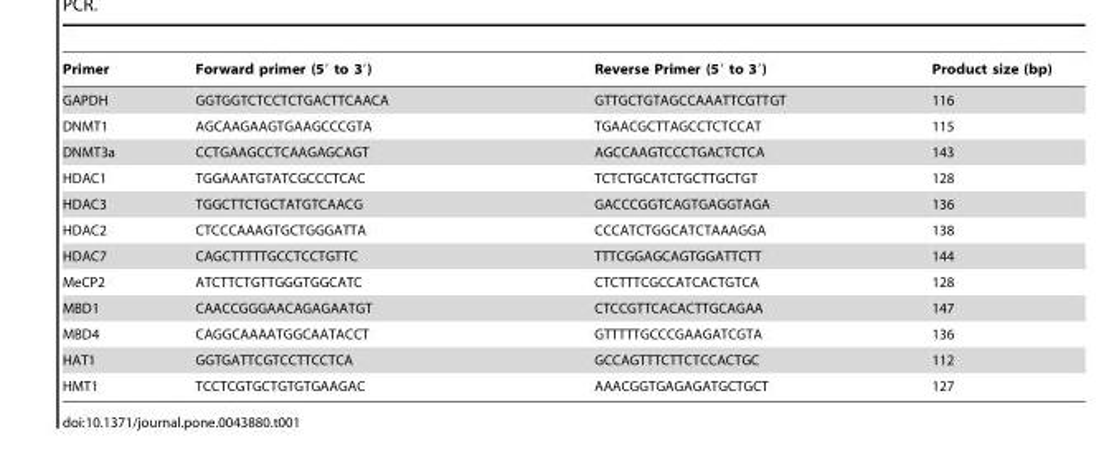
<table><thead><tr><td>Primer</td><td>Forward primer (5′ to 3′)</td><td>Reverse Primer (5′ to 3′)</td><td>Product size (bp)</td></tr></thead><tbody><tr><td>GAPDH</td><td>GGTGGTCTCCTCTGACTTCAACA</td><td>GTTGCTGTAGCCAAATTCGTTGT</td><td>116</td></tr><tr><td>DNMT1</td><td>AGCAAGAAGTGAAGCCCGTA</td><td>TGAACGCTTAGCCTCTCCAT</td><td>115</td></tr><tr><td>DNMT3a</td><td>CCTGAAGCCTCAAGAGCAGT</td><td>AGCCAAGTCCCTGACTCTCA</td><td>143</td></tr><tr><td>HDAC1</td><td>TGGAAATGTATCGCCCTCAC</td><td>TCTCTGCATCTGCTTGCTGT</td><td>128</td></tr><tr><td>HDAC3</td><td>TGGCTTCTGCTATGTCAACG</td><td>GACCCGGTCAGTGAGGTAGA</td><td>136</td></tr><tr><td>HDAC2</td><td>CTCCCAAAGTGCTGGGATTA</td><td>CCCATCTGGCATCTAAAGGA</td><td>138</td></tr><tr><td>HDAC7</td><td>CAGCTTTTTGCCTCCTGTTC</td><td>TTTCGGAGCAGTGGATTCTT</td><td>144</td></tr><tr><td>MeCP2</td><td>ATCTTCTGTTGGGTGGCATC</td><td>CTCTTTCGCCATCACTGTCA</td><td>128</td></tr><tr><td>MBD1</td><td>CAACCGGGAACAGAGAATGT</td><td>CTCCGTTCACACTTGCAGAA</td><td>147</td></tr><tr><td>MBD4</td><td>CAGGCAAAATGGCAATACCT</td><td>GTTTTTGCCCGAAGATCGTA</td><td>136</td></tr><tr><td>HAT1</td><td>GGTGATTCGTCCTTCCTCA</td><td>GCCAGTTTCTTCTCCACTGC</td><td>112</td></tr><tr><td>HMT1</td><td>TCCTCGTGCTGTGTGAAGAC</td><td>AAACGGTGAGAGATGCTGCT</td><td>127</td></tr></tbody></table>